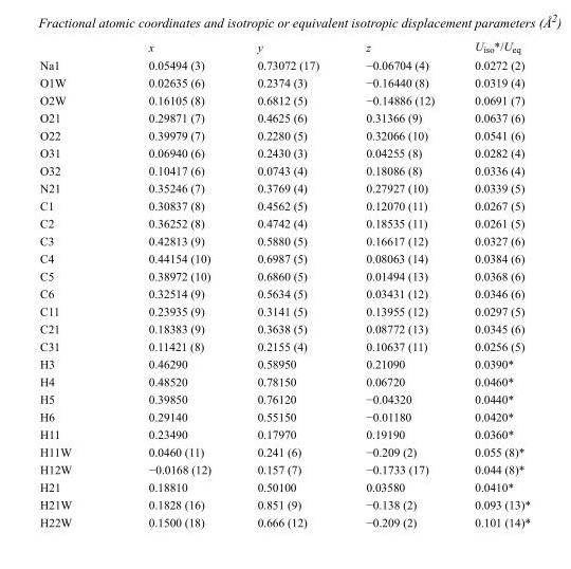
<table><thead><tr><td></td><td>x</td><td>y</td><td>z</td><td>U<sub>iso</sub>*/U<sub>eq</sub></td></tr></thead><tbody><tr><td>Na1</td><td>0.05494 (3)</td><td>0.73072 (17)</td><td>−0.06704 (4)</td><td>0.0272 (2)</td></tr><tr><td>O1W</td><td>0.02635 (6)</td><td>0.2374 (3)</td><td>−0.16440 (8)</td><td>0.0319 (4)</td></tr><tr><td>O2W</td><td>0.16105 (8)</td><td>0.6812 (5)</td><td>−0.14886 (12)</td><td>0.0691 (7)</td></tr><tr><td>O21</td><td>0.29871 (7)</td><td>0.4625 (6)</td><td>0.31366 (9)</td><td>0.0637 (6)</td></tr><tr><td>O22</td><td>0.39979 (7)</td><td>0.2280 (5)</td><td>0.32066 (10)</td><td>0.0541 (6)</td></tr><tr><td>O31</td><td>0.06940 (6)</td><td>0.2430 (3)</td><td>0.04255 (8)</td><td>0.0282 (4)</td></tr><tr><td>O32</td><td>0.10417 (6)</td><td>0.0743 (4)</td><td>0.18086 (8)</td><td>0.0336 (4)</td></tr><tr><td>N21</td><td>0.35246 (7)</td><td>0.3769 (4)</td><td>0.27927 (10)</td><td>0.0339 (5)</td></tr><tr><td>C1</td><td>0.30837 (8)</td><td>0.4562 (5)</td><td>0.12070 (11)</td><td>0.0267 (5)</td></tr><tr><td>C2</td><td>0.36252 (8)</td><td>0.4742 (4)</td><td>0.18535 (11)</td><td>0.0261 (5)</td></tr><tr><td>C3</td><td>0.42813 (9)</td><td>0.5880 (5)</td><td>0.16617 (12)</td><td>0.0327 (6)</td></tr><tr><td>C4</td><td>0.44154 (10)</td><td>0.6987 (5)</td><td>0.08063 (14)</td><td>0.0384 (6)</td></tr><tr><td>C5</td><td>0.38972 (10)</td><td>0.6860 (5)</td><td>0.01494 (13)</td><td>0.0368 (6)</td></tr><tr><td>C6</td><td>0.32514 (9)</td><td>0.5634 (5)</td><td>0.03431 (12)</td><td>0.0346 (6)</td></tr><tr><td>C11</td><td>0.23935 (9)</td><td>0.3141 (5)</td><td>0.13955 (12)</td><td>0.0297 (5)</td></tr><tr><td>C21</td><td>0.18383 (9)</td><td>0.3638 (5)</td><td>0.08772 (13)</td><td>0.0345 (6)</td></tr><tr><td>C31</td><td>0.11421 (8)</td><td>0.2155 (4)</td><td>0.10637 (11)</td><td>0.0256 (5)</td></tr><tr><td>H3</td><td>0.46290</td><td>0.58950</td><td>0.21090</td><td>0.0390*</td></tr><tr><td>H4</td><td>0.48520</td><td>0.78150</td><td>0.06720</td><td>0.0460*</td></tr><tr><td>H5</td><td>0.39850</td><td>0.76120</td><td>−0.04320</td><td>0.0440*</td></tr><tr><td>H6</td><td>0.29140</td><td>0.55150</td><td>−0.01180</td><td>0.0420*</td></tr><tr><td>H11</td><td>0.23490</td><td>0.17970</td><td>0.19190</td><td>0.0360*</td></tr><tr><td>H11W</td><td>0.0460 (11)</td><td>0.241 (6)</td><td>−0.209 (2)</td><td>0.055 (8)*</td></tr><tr><td>H12W</td><td>−0.0168 (12)</td><td>0.157 (7)</td><td>−0.1733 (17)</td><td>0.044 (8)*</td></tr><tr><td>H21</td><td>0.18810</td><td>0.50100</td><td>0.03580</td><td>0.0410*</td></tr><tr><td>H21W</td><td>0.1828 (16)</td><td>0.851 (9)</td><td>−0.138 (2)</td><td>0.093 (13)*</td></tr><tr><td>H22W</td><td>0.1500 (18)</td><td>0.666 (12)</td><td>−0.209 (2)</td><td>0.101 (14)*</td></tr></tbody></table>